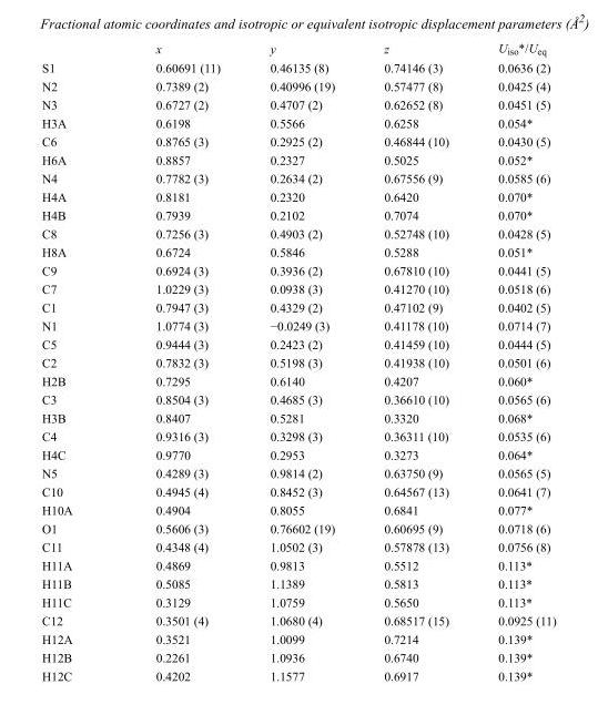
<table><thead><tr><td></td><td>x</td><td>y</td><td>z</td><td>U<sub>iso</sub>*/U<sub>eq</sub></td></tr></thead><tbody><tr><td>S1</td><td>0.60691 (11)</td><td>0.46135 (8)</td><td>0.74146 (3)</td><td>0.0636 (2)</td></tr><tr><td>N2</td><td>0.7389 (2)</td><td>0.40996 (19)</td><td>0.57477 (8)</td><td>0.0425 (4)</td></tr><tr><td>N3</td><td>0.6727 (2)</td><td>0.4707 (2)</td><td>0.62652 (8)</td><td>0.0451 (5)</td></tr><tr><td>H3A</td><td>0.6198</td><td>0.5566</td><td>0.6258</td><td>0.054*</td></tr><tr><td>C6</td><td>0.8765 (3)</td><td>0.2925 (2)</td><td>0.46844 (10)</td><td>0.0430 (5)</td></tr><tr><td>H6A</td><td>0.8857</td><td>0.2327</td><td>0.5025</td><td>0.052*</td></tr><tr><td>N4</td><td>0.7782 (3)</td><td>0.2634 (2)</td><td>0.67556 (9)</td><td>0.0585 (6)</td></tr><tr><td>H4A</td><td>0.8181</td><td>0.2320</td><td>0.6420</td><td>0.070*</td></tr><tr><td>H4B</td><td>0.7939</td><td>0.2102</td><td>0.7074</td><td>0.070*</td></tr><tr><td>C8</td><td>0.7256 (3)</td><td>0.4903 (2)</td><td>0.52748 (10)</td><td>0.0428 (5)</td></tr><tr><td>H8A</td><td>0.6724</td><td>0.5846</td><td>0.5288</td><td>0.051*</td></tr><tr><td>C9</td><td>0.6924 (3)</td><td>0.3936 (2)</td><td>0.67810 (10)</td><td>0.0441 (5)</td></tr><tr><td>C7</td><td>1.0229 (3)</td><td>0.0938 (3)</td><td>0.41270 (10)</td><td>0.0518 (6)</td></tr><tr><td>C1</td><td>0.7947 (3)</td><td>0.4329 (2)</td><td>0.47102 (9)</td><td>0.0402 (5)</td></tr><tr><td>N1</td><td>1.0774 (3)</td><td>−0.0249 (3)</td><td>0.41178 (10)</td><td>0.0714 (7)</td></tr><tr><td>C5</td><td>0.9444 (3)</td><td>0.2423 (2)</td><td>0.41459 (10)</td><td>0.0444 (5)</td></tr><tr><td>C2</td><td>0.7832 (3)</td><td>0.5198 (3)</td><td>0.41938 (10)</td><td>0.0501 (6)</td></tr><tr><td>H2B</td><td>0.7295</td><td>0.6140</td><td>0.4207</td><td>0.060*</td></tr><tr><td>C3</td><td>0.8504 (3)</td><td>0.4685 (3)</td><td>0.36610 (10)</td><td>0.0565 (6)</td></tr><tr><td>H3B</td><td>0.8407</td><td>0.5281</td><td>0.3320</td><td>0.068*</td></tr><tr><td>C4</td><td>0.9316 (3)</td><td>0.3298 (3)</td><td>0.36311 (10)</td><td>0.0535 (6)</td></tr><tr><td>H4C</td><td>0.9770</td><td>0.2953</td><td>0.3273</td><td>0.064*</td></tr><tr><td>N5</td><td>0.4289 (3)</td><td>0.9814 (2)</td><td>0.63750 (9)</td><td>0.0565 (5)</td></tr><tr><td>C10</td><td>0.4945 (4)</td><td>0.8452 (3)</td><td>0.64567 (13)</td><td>0.0641 (7)</td></tr><tr><td>H10A</td><td>0.4904</td><td>0.8055</td><td>0.6841</td><td>0.077*</td></tr><tr><td>O1</td><td>0.5606 (3)</td><td>0.76602 (19)</td><td>0.60695 (9)</td><td>0.0718 (6)</td></tr><tr><td>C11</td><td>0.4348 (4)</td><td>1.0502 (3)</td><td>0.57878 (13)</td><td>0.0756 (8)</td></tr><tr><td>H11A</td><td>0.4869</td><td>0.9813</td><td>0.5512</td><td>0.113*</td></tr><tr><td>H11B</td><td>0.5085</td><td>1.1389</td><td>0.5813</td><td>0.113*</td></tr><tr><td>H11C</td><td>0.3129</td><td>1.0759</td><td>0.5650</td><td>0.113*</td></tr><tr><td>C12</td><td>0.3501 (4)</td><td>1.0680 (4)</td><td>0.68517 (15)</td><td>0.0925 (11)</td></tr><tr><td>H12A</td><td>0.3521</td><td>1.0099</td><td>0.7214</td><td>0.139*</td></tr><tr><td>H12B</td><td>0.2261</td><td>1.0936</td><td>0.6740</td><td>0.139*</td></tr><tr><td>H12C</td><td>0.4202</td><td>1.1577</td><td>0.6917</td><td>0.139*</td></tr></tbody></table>